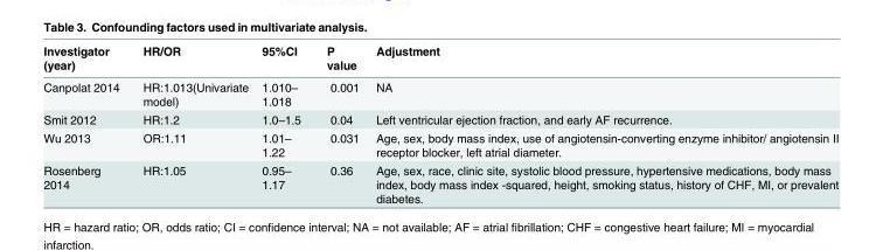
<table><thead><tr><td>Investigator (year)</td><td>HR/OR</td><td>95%CI</td><td>P value</td><td>Adjustment</td></tr></thead><tbody><tr><td>Canpolat 2014</td><td>HR:1.013(Univariate model)</td><td>1.010– 1.018</td><td>0.001</td><td>NA</td></tr><tr><td>Smit 2012</td><td>HR:1.2</td><td>1.0–1.5</td><td>0.04</td><td>Left ventricular ejection fraction, and early AF recurrence.</td></tr><tr><td>Wu 2013</td><td>OR:1.11</td><td>1.01– 1.22</td><td>0.031</td><td>Age, sex, body mass index, use of angiotensin-converting enzyme inhibitor/ angiotensin II receptor blocker, left atrial diameter.</td></tr><tr><td>Rosenberg 2014</td><td>HR:1.05</td><td>0.95– 1.17</td><td>0.36</td><td>Age, sex, race, clinic site, systolic blood pressure, hypertensive medications, body mass index, body mass index -squared, height, smoking status, history of CHF, MI, or prevalent diabetes.</td></tr></tbody></table>